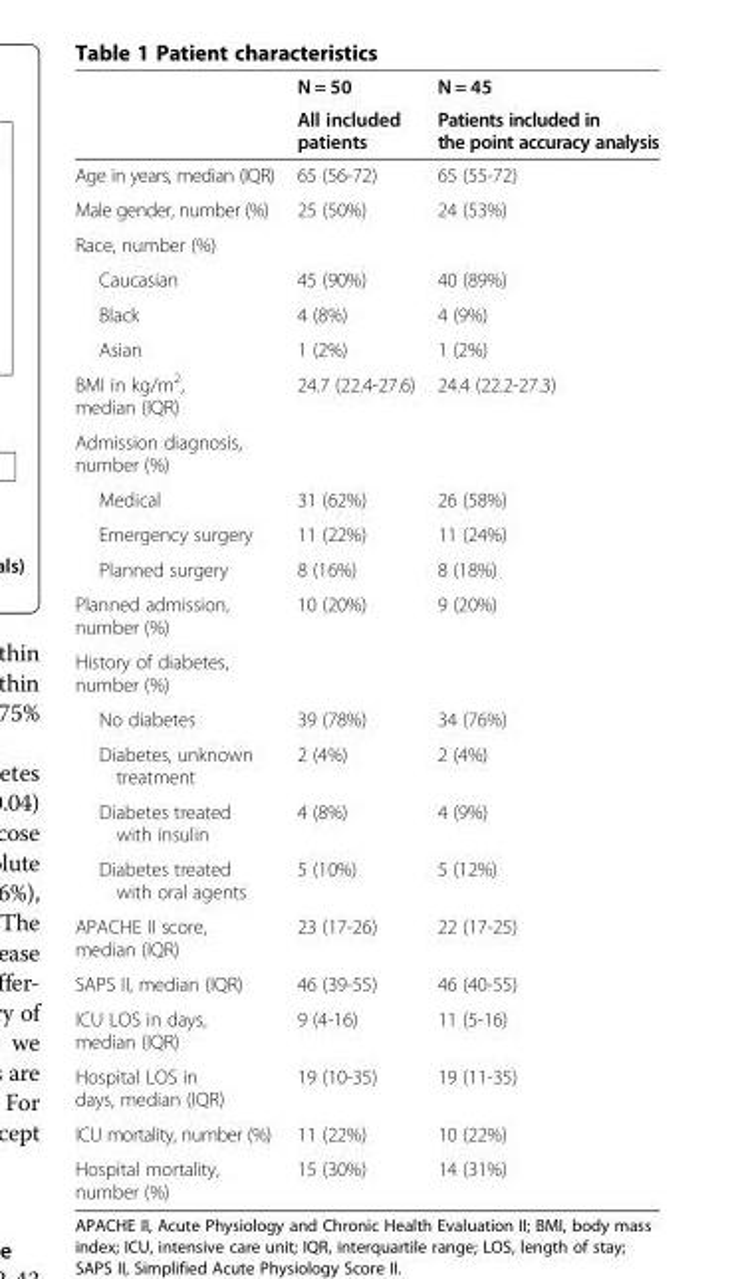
<table><thead><tr><td rowspan="2"></td><td rowspan="2">N = 50 All included patients</td><td rowspan="2">N = 45 Patients included in the point accuracy analysis</td></tr><tr></tr></thead><tbody><tr><td>Age in years, median (IQR)</td><td>65 (56-72)</td><td>65 (55-72)</td></tr><tr><td>Male gender, number (%)</td><td>25 (50%)</td><td>24 (53%)</td></tr><tr><td colspan="3">Race, number (%)</td></tr><tr><td>Caucasian</td><td>45 (90%)</td><td>40 (89%)</td></tr><tr><td>Black</td><td>4 (8%)</td><td>4 (9%)</td></tr><tr><td>Asian</td><td>1 (2%)</td><td>1 (2%)</td></tr><tr><td>BMI in kg/m<sup>2</sup>, median (IQR)</td><td>24.7 (22.4-27.6)</td><td>24.4 (22.2-27.3)</td></tr><tr><td colspan="3">Admission diagnosis, number (%)</td></tr><tr><td>Medical</td><td>31 (62%)</td><td>26 (58%)</td></tr><tr><td>Emergency surgery</td><td>11 (22%)</td><td>11 (24%)</td></tr><tr><td>Planned surgery</td><td>8 (16%)</td><td>8 (18%)</td></tr><tr><td>Planned admission, number (%)</td><td>10 (20%)</td><td>9 (20%)</td></tr><tr><td colspan="3">History of diabetes, number (%)</td></tr><tr><td>No diabetes</td><td>39 (78%)</td><td>34 (76%)</td></tr><tr><td>Diabetes, unknown treatment</td><td>2 (4%)</td><td>2 (4%)</td></tr><tr><td>Diabetes treated with insulin</td><td>4 (8%)</td><td>4 (9%)</td></tr><tr><td>Diabetes treated with oral agents</td><td>5 (10%)</td><td>5 (12%)</td></tr><tr><td>APACHE II score, median (IQR)</td><td>23 (17-26)</td><td>22 (17-25)</td></tr><tr><td>SAPS II, median (IQR)</td><td>46 (39-55)</td><td>46 (40-55)</td></tr><tr><td>ICU LOS in days, median (IQR)</td><td>9 (4-16)</td><td>11 (5-16)</td></tr><tr><td>Hospital LOS in days, median (IQR)</td><td>19 (10-35)</td><td>19 (11-35)</td></tr><tr><td>ICU mortality, number (%)</td><td>11 (22%)</td><td>10 (22%)</td></tr><tr><td>Hospital mortality, number (%)</td><td>15 (30%)</td><td>14 (31%)</td></tr></tbody></table>